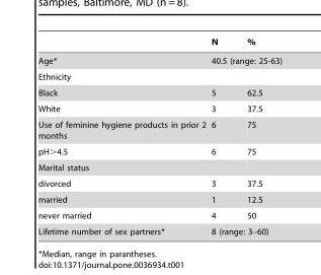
<table><thead><tr><td></td><td>N</td><td>%</td></tr></thead><tbody><tr><td>Age*</td><td colspan="2">40.5 (range: 25-63)</td></tr><tr><td colspan="3">Ethnicity</td></tr><tr><td>Black</td><td>5</td><td>62.5</td></tr><tr><td>White</td><td>3</td><td>37.5</td></tr><tr><td>Use of feminine hygiene products in prior 2 months</td><td>6</td><td>75</td></tr><tr><td>pH&gt;4.5</td><td>6</td><td>75</td></tr><tr><td colspan="3">Marital status</td></tr><tr><td>divorced</td><td>3</td><td>37.5</td></tr><tr><td>married</td><td>1</td><td>12.5</td></tr><tr><td>never married</td><td>4</td><td>50</td></tr><tr><td>Lifetime number of sex partners*</td><td colspan="2">8 (range: 3–60)</td></tr></tbody></table>